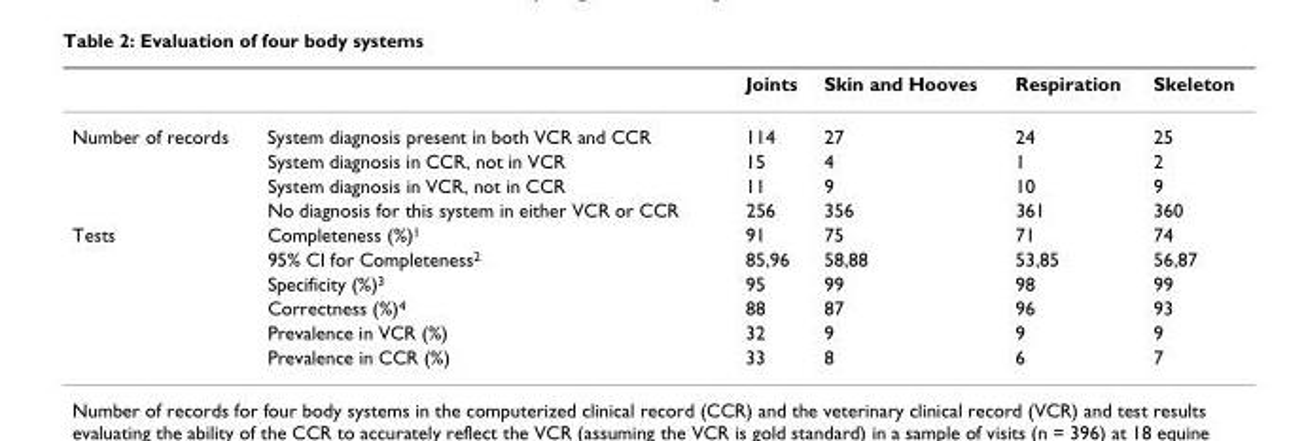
<table><thead><tr><td></td><td></td><td>Joints</td><td>Skin and Hooves</td><td>Respiration</td><td>Skeleton</td></tr></thead><tbody><tr><td rowspan="4">Number of records</td><td>System diagnosis present in both VCR and CCR</td><td>114</td><td>27</td><td>24</td><td>25</td></tr><tr><td>System diagnosis in CCR, not in VCR</td><td>15</td><td>4</td><td>1</td><td>2</td></tr><tr><td>System diagnosis in VCR, not in CCR</td><td>11</td><td>9</td><td>10</td><td>9</td></tr><tr><td>No diagnosis for this system in either VCR or CCR</td><td>256</td><td>356</td><td>361</td><td>360</td></tr><tr><td rowspan="6">Tests</td><td>Completeness (%)<sup>1</sup></td><td>91</td><td>75</td><td>71</td><td>74</td></tr><tr><td>95% CI for Completeness<sup>2</sup></td><td>85,96</td><td>58,88</td><td>53,85</td><td>56,87</td></tr><tr><td>Specificity (%)<sup>3</sup></td><td>95</td><td>99</td><td>98</td><td>99</td></tr><tr><td>Correctness (%)<sup>4</sup></td><td>88</td><td>87</td><td>96</td><td>93</td></tr><tr><td>Prevalence in VCR (%)</td><td>32</td><td>9</td><td>9</td><td>9</td></tr><tr><td>Prevalence in CCR (%)</td><td>33</td><td>8</td><td>6</td><td>7</td></tr></tbody></table>